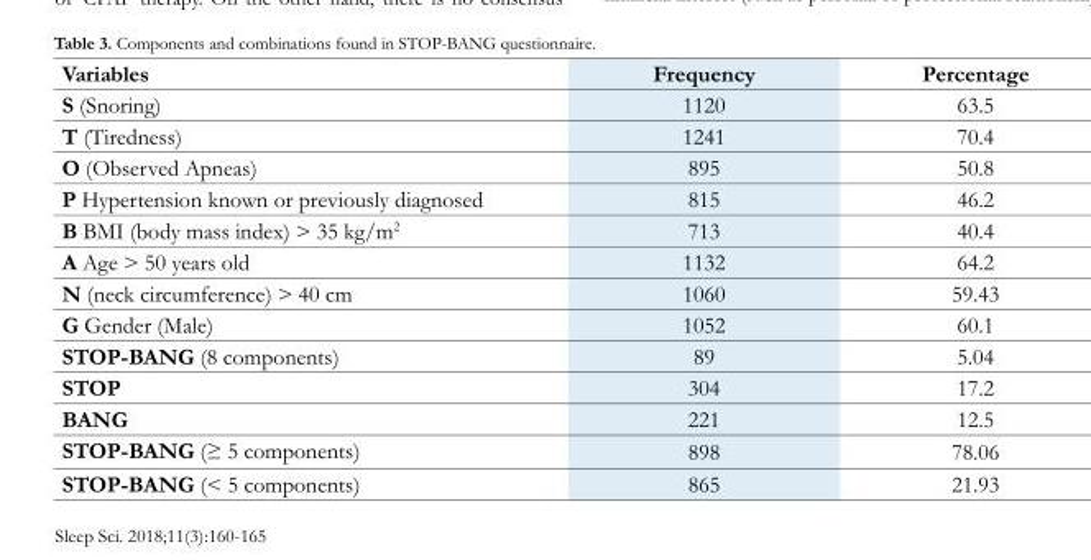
<table><thead><tr><td>Variables</td><td>Frequency</td><td>Percentage</td></tr></thead><tbody><tr><td>S (Snoring)</td><td>1120</td><td>63.5</td></tr><tr><td>T (Tiredness)</td><td>1241</td><td>70.4</td></tr><tr><td>O (Observed Apneas)</td><td>895</td><td>50.8</td></tr><tr><td>P Hypertension known or previously diagnosed</td><td>815</td><td>46.2</td></tr><tr><td>B BMI (body mass index) &gt; 35 kg/m<sup>2</sup></td><td>713</td><td>40.4</td></tr><tr><td>A Age &gt; 50 years old</td><td>1132</td><td>64.2</td></tr><tr><td>N (neck circumference) &gt; 40 cm</td><td>1060</td><td>59.43</td></tr><tr><td>G Gender (Male)</td><td>1052</td><td>60.1</td></tr><tr><td>STOP-BANG (8 components)</td><td>89</td><td>5.04</td></tr><tr><td>STOP</td><td>304</td><td>17.2</td></tr><tr><td>BANG</td><td>221</td><td>12.5</td></tr><tr><td>STOP-BANG (≥ 5 components)</td><td>898</td><td>78.06</td></tr><tr><td>STOP-BANG (&lt; 5 components)</td><td>865</td><td>21.93</td></tr></tbody></table>